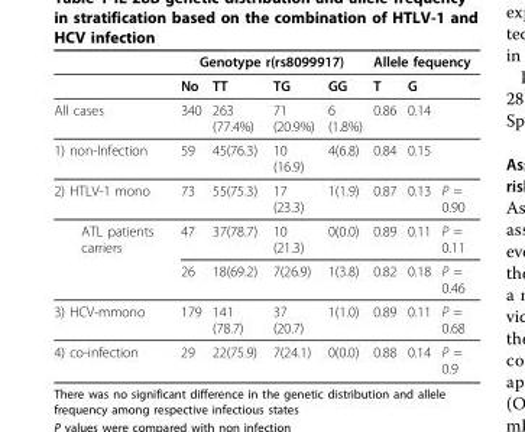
<table><thead><tr><td rowspan="2"></td><td colspan="4">Genotype r(rs8099917)</td><td colspan="3">Allele fequency</td></tr><tr><td>No</td><td>TT</td><td>TG</td><td>GG</td><td>T</td><td>G</td><td></td></tr></thead><tbody><tr><td>All cases</td><td>340</td><td>263 (77.4%)</td><td>71 (20.9%)</td><td>6 (1.8%)</td><td>0.86</td><td>0.14</td><td></td></tr><tr><td>1) non-Infection</td><td>59</td><td>45(76.3)</td><td>10 (16.9)</td><td>4(6.8)</td><td>0.84</td><td>0.15</td><td></td></tr><tr><td>2) HTLV-1 mono</td><td>73</td><td>55(75.3)</td><td>17 (23.3)</td><td>1(1.9)</td><td>0.87</td><td>0.13</td><td>P = 0.90</td></tr><tr><td rowspan="2">ATL patients carriers</td><td>47</td><td>37(78.7)</td><td>10 (21.3)</td><td>0(0.0)</td><td>0.89</td><td>0.11</td><td>P = 0.11</td></tr><tr><td>26</td><td>18(69.2)</td><td>7(26.9)</td><td>1(3.8)</td><td>0.82</td><td>0.18</td><td>P = 0.46</td></tr><tr><td>3) HCV-mmono</td><td>179</td><td>141 (78.7)</td><td>37 (20.7)</td><td>1(1.0)</td><td>0.89</td><td>0.11</td><td>P = 0.68</td></tr><tr><td>4) co-infection</td><td>29</td><td>22(75.9)</td><td>7(24.1)</td><td>0(0.0)</td><td>0.88</td><td>0.14</td><td>P = 0.9</td></tr></tbody></table>